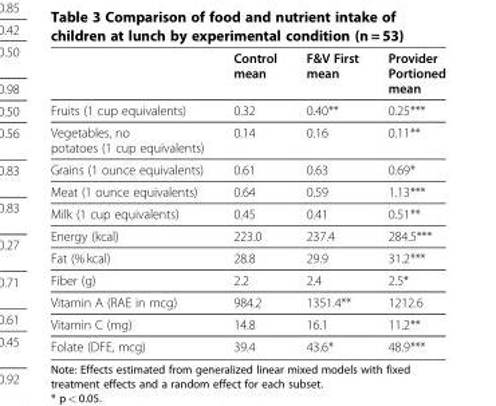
<table><thead><tr><td></td><td>Control mean</td><td>F&amp;V First mean</td><td>Provider Portioned mean</td></tr></thead><tbody><tr><td>Fruits (1 cup equivalents)</td><td>0.32</td><td>0.40**</td><td>0.25***</td></tr><tr><td>Vegetables, no potatoes (1 cup equivalents)</td><td>0.14</td><td>0.16</td><td>0.11**</td></tr><tr><td>Grains (1 ounce equivalents)</td><td>0.61</td><td>0.63</td><td>0.69*</td></tr><tr><td>Meat (1 ounce equivalents)</td><td>0.64</td><td>0.59</td><td>1.13***</td></tr><tr><td>Milk (1 cup equivalents)</td><td>0.45</td><td>0.41</td><td>0.51**</td></tr><tr><td>Energy (kcal)</td><td>223.0</td><td>237.4</td><td>284.5***</td></tr><tr><td>Fat (% kcal)</td><td>28.8</td><td>29.9</td><td>31.2***</td></tr><tr><td>Fiber (g)</td><td>2.2</td><td>2.4</td><td>2.5*</td></tr><tr><td>Vitamin A (RAE in mcg)</td><td>984.2</td><td>1351.4**</td><td>1212.6</td></tr><tr><td>Vitamin C (mg)</td><td>14.8</td><td>16.1</td><td>11.2**</td></tr><tr><td>Folate (DFE, mcg)</td><td>39.4</td><td>43.6*</td><td>48.9***</td></tr></tbody></table>